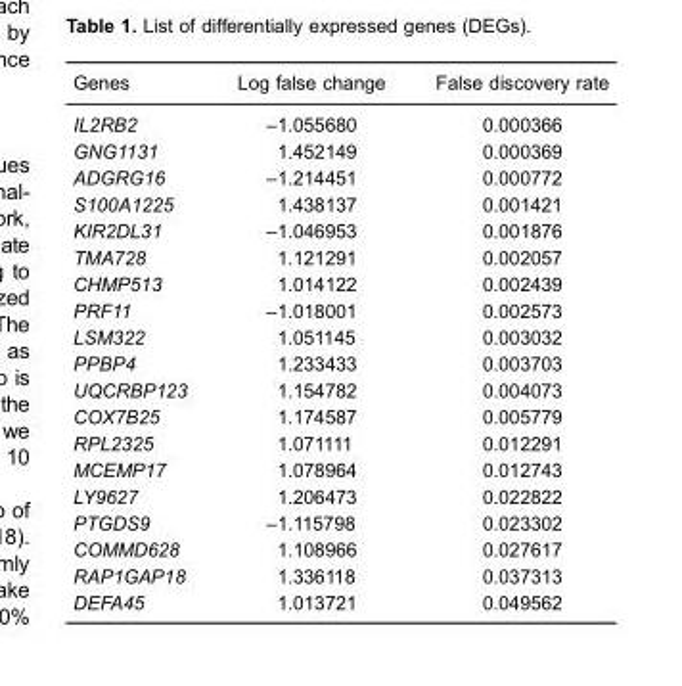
<table><thead><tr><td>Genes</td><td>Log false change</td><td>False discovery rate</td></tr></thead><tbody><tr><td>IL2RB2</td><td>–1.055680</td><td>0.000366</td></tr><tr><td>GNG1131</td><td>1.452149</td><td>0.000369</td></tr><tr><td>ADGRG16</td><td>–1.214451</td><td>0.000772</td></tr><tr><td>S100A1225</td><td>1.438137</td><td>0.001421</td></tr><tr><td>KIR2DL31</td><td>–1.046953</td><td>0.001876</td></tr><tr><td>TMA728</td><td>1.121291</td><td>0.002057</td></tr><tr><td>CHMP513</td><td>1.014122</td><td>0.002439</td></tr><tr><td>PRF11</td><td>–1.018001</td><td>0.002573</td></tr><tr><td>LSM322</td><td>1.051145</td><td>0.003032</td></tr><tr><td>PPBP4</td><td>1.233433</td><td>0.003703</td></tr><tr><td>UQCRBP123</td><td>1.154782</td><td>0.004073</td></tr><tr><td>COX7B25</td><td>1.174587</td><td>0.005779</td></tr><tr><td>RPL2325</td><td>1.071111</td><td>0.012291</td></tr><tr><td>MCEMP17</td><td>1.078964</td><td>0.012743</td></tr><tr><td>LY9627</td><td>1.206473</td><td>0.022822</td></tr><tr><td>PTGDS9</td><td>–1.115798</td><td>0.023302</td></tr><tr><td>COMMD628</td><td>1.108966</td><td>0.027617</td></tr><tr><td>RAP1GAP18</td><td>1.336118</td><td>0.037313</td></tr><tr><td>DEFA45</td><td>1.013721</td><td>0.049562</td></tr></tbody></table>